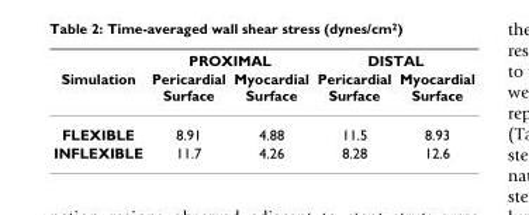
<table><thead><tr><td rowspan="2">Simulation</td><td colspan="2">PROXIMAL</td><td colspan="2">DISTAL</td></tr><tr><td>Pericardial Surface</td><td>Myocardial Surface</td><td>Pericardial Surface</td><td>Myocardial Surface</td></tr></thead><tbody><tr><td>FLEXIBLE</td><td>8.91</td><td>4.88</td><td>11.5</td><td>8.93</td></tr><tr><td>INFLEXIBLE</td><td>11.7</td><td>4.26</td><td>8.28</td><td>12.6</td></tr></tbody></table>